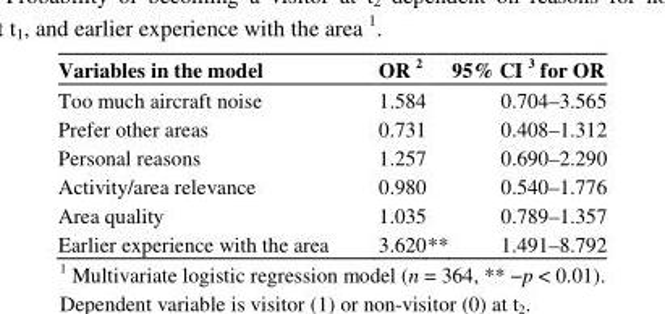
<table><thead><tr><td>Variables in the model</td><td>OR 2</td><td>95% CI 3 for OR</td></tr></thead><tbody><tr><td>Too much aircraft noise</td><td>1.584</td><td>0.704–3.565</td></tr><tr><td>Prefer other areas</td><td>0.731</td><td>0.408–1.312</td></tr><tr><td>Personal reasons</td><td>1.257</td><td>0.690–2.290</td></tr><tr><td>Activity/area relevance</td><td>0.980</td><td>0.540–1.776</td></tr><tr><td>Area quality</td><td>1.035</td><td>0.789–1.357</td></tr><tr><td>Earlier experience with the area</td><td>3.620**</td><td>1.491–8.792</td></tr></tbody></table>